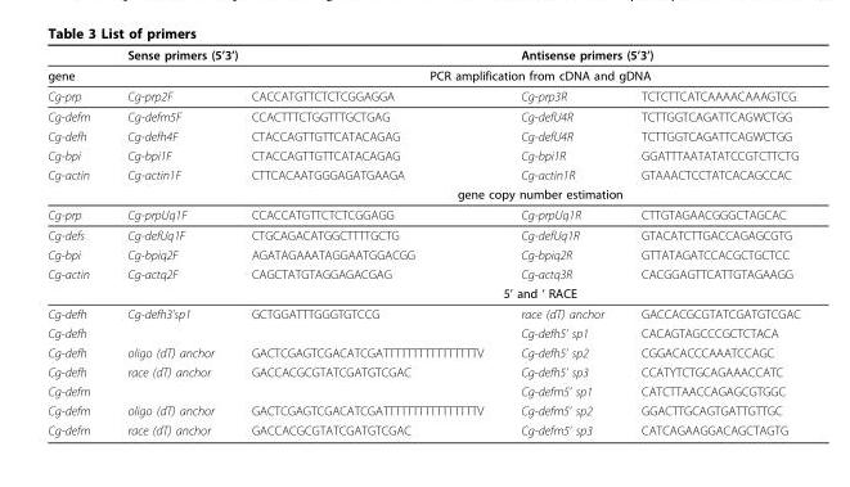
<table><thead><tr><td rowspan="3">gene Cg-prp</td><td colspan="2">Sense primers (5’3’)</td><td colspan="2">Antisense primers (5’3’)</td></tr><tr><td rowspan="2">Cg-prp2F</td><td colspan="3">PCR amplification from cDNA and gDNA</td></tr><tr><td>CACCATGTTCTCTCGGAGGA</td><td>Cg-prp3R</td><td>TCTCTTCATCAAAACAAAGTCG</td></tr></thead><tbody><tr><td>Cg-defm</td><td>Cg-defm5F</td><td>CCACTTTCTGGTTTGCTGAG</td><td>Cg-defU4R</td><td>TCTTGGTCAGATTCAGWCTGG</td></tr><tr><td>Cg-defh</td><td>Cg-defh4F</td><td>CTACCAGTTGTTCATACAGAG</td><td>Cg-defU4R</td><td>TCTTGGTCAGATTCAGWCTGG</td></tr><tr><td>Cg-bpi</td><td>Cg-bpi1F</td><td>CTACCAGTTGTTCATACAGAG</td><td>Cg-bpi1R</td><td>GGATTTAATATATCCGTCTTCTG</td></tr><tr><td rowspan="2">Cg-actin</td><td>Cg-actin1F</td><td>CTTCACAATGGGAGATGAAGA</td><td>Cg-actin1R</td><td>GTAAACTCCTATCACAGCCAC</td></tr><tr><td></td><td colspan="3">gene copy number estimation</td></tr><tr><td>Cg-prp</td><td>Cg-prpUq1F</td><td>CCACCATGTTCTCTCGGAGG</td><td>Cg-prpUq1R</td><td>CTTGTAGAACGGGCTAGCAC</td></tr><tr><td>Cg-defs</td><td>Cg-defUq1F</td><td>CTGCAGACATGGCTTTTGCTG</td><td>Cg-defUq1R</td><td>GTACATCTTGACCAGAGCGTG</td></tr><tr><td>Cg-bpi</td><td>Cg-bpiq2F</td><td>AGATAGAAATAGGAATGGACGG</td><td>Cg-bpiq2R</td><td>GTTATAGATCCACGCTGCTCC</td></tr><tr><td rowspan="2">Cg-actin</td><td>Cg-actq2F</td><td>CAGCTATGTAGGAGACGAG</td><td>Cg-actq3R</td><td>CACGGAGTTCATTGTAGAAGG</td></tr><tr><td></td><td colspan="3">5’ and ‘ RACE</td></tr><tr><td>Cg-defh</td><td>Cg-defh3’sp1</td><td>GCTGGATTTGGGTGTCCG</td><td>race (dT) anchor</td><td>GACCACGCGTATCGATGTCGAC</td></tr><tr><td>Cg-defh</td><td></td><td></td><td>Cg-defh5’ sp1</td><td>CACAGTAGCCCGCTCTACA</td></tr><tr><td>Cg-defh</td><td>oligo (dT) anchor</td><td>GACTCGAGTCGACATCGATTTTTTTTTTTTTTTTV</td><td>Cg-defh5’ sp2</td><td>CGGACACCCAAATCCAGC</td></tr><tr><td>Cg-defh</td><td>race (dT) anchor</td><td>GACCACGCGTATCGATGTCGAC</td><td>Cg-defh5’ sp3</td><td>CCATYTCTGCAGAAACCATC</td></tr><tr><td>Cg-defm</td><td></td><td></td><td>Cg-defm5’ sp1</td><td>CATCTTAACCAGAGCGTGGC</td></tr><tr><td>Cg-defm</td><td>oligo (dT) anchor</td><td>GACTCGAGTCGACATCGATTTTTTTTTTTTTTTTV</td><td>Cg-defm5’ sp2</td><td>GGACTTGCAGTGATTGTTGC</td></tr><tr><td>Cg-defm</td><td>race (dT) anchor</td><td>GACCACGCGTATCGATGTCGAC</td><td>Cg-defm5’ sp3</td><td>CATCAGAAGGACAGCTAGTG</td></tr></tbody></table>